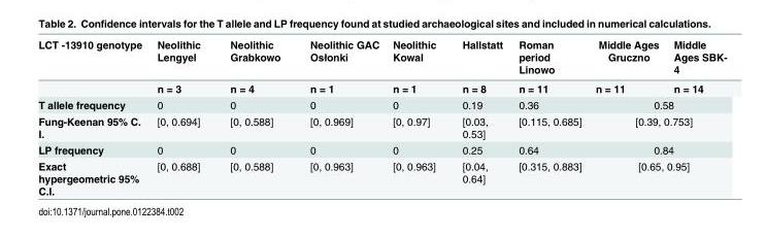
<table><thead><tr><td>LCT -13910 genotype</td><td>Neolithic Lengyel</td><td>Neolithic Grabkowo</td><td>Neolithic GAC Osłonki</td><td>Neolithic Kowal</td><td>Hallstatt</td><td>Roman period Linowo</td><td>Middle Ages Gruczno</td><td>Middle Ages SBK- 4</td></tr></thead><tbody><tr><td></td><td>n = 3</td><td>n = 4</td><td>n = 1</td><td>n = 1</td><td>n = 8</td><td>n = 11</td><td>n = 11</td><td>n = 14</td></tr><tr><td>T allele frequency</td><td>0</td><td>0</td><td>0</td><td>0</td><td>0.19</td><td>0.36</td><td colspan="2">0.58</td></tr><tr><td>Fung-Keenan 95% C. I.</td><td>[0, 0.694]</td><td>[0, 0.588]</td><td>[0, 0.969]</td><td>[0, 0.97]</td><td>[0.03, 0.53]</td><td>[0.115, 0.685]</td><td colspan="2">[0.39, 0.753]</td></tr><tr><td>LP frequency</td><td>0</td><td>0</td><td>0</td><td>0</td><td>0.25</td><td>0.64</td><td colspan="2">0.84</td></tr><tr><td>Exact hypergeometric 95% C.I.</td><td>[0, 0.688]</td><td>[0, 0.588]</td><td>[0, 0.963]</td><td>[0, 0.963]</td><td>[0.04, 0.64]</td><td>[0.315, 0.883]</td><td colspan="2">[0.65, 0.95]</td></tr></tbody></table>